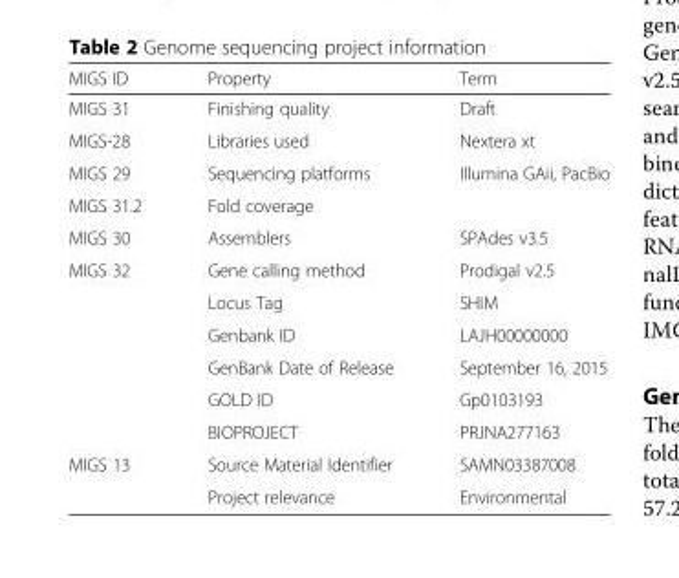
<table><thead><tr><td>MIGS ID</td><td>Property</td><td>Term</td></tr></thead><tbody><tr><td>MIGS 31</td><td>Finishing quality</td><td>Draft</td></tr><tr><td>MIGS-28</td><td>Libraries used</td><td>Nextera xt</td></tr><tr><td>MIGS 29</td><td>Sequencing platforms</td><td>Illumina GAii, PacBio</td></tr><tr><td>MIGS 31.2</td><td>Fold coverage</td><td></td></tr><tr><td>MIGS 30</td><td>Assemblers</td><td>SPAdes v3.5</td></tr><tr><td rowspan="6">MIGS 32</td><td>Gene calling method</td><td>Prodigal v2.5</td></tr><tr><td>Locus Tag</td><td>SHIM</td></tr><tr><td>Genbank ID</td><td>LAJH00000000</td></tr><tr><td>GenBank Date of Release</td><td>September 16, 2015</td></tr><tr><td>GOLD ID</td><td>Gp0103193</td></tr><tr><td>BIOPROJECT</td><td>PRJNA277163</td></tr><tr><td rowspan="2">MIGS 13</td><td>Source Material Identifier</td><td>SAMN03387008</td></tr><tr><td>Project relevance</td><td>Environmental</td></tr></tbody></table>